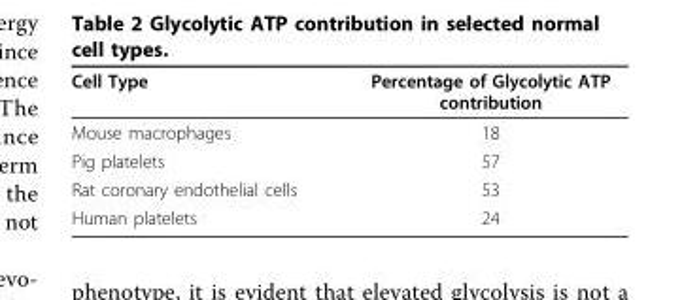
<table><thead><tr><td>Cell Type</td><td>Percentage of Glycolytic ATP contribution</td></tr></thead><tbody><tr><td>Mouse macrophages</td><td>18</td></tr><tr><td>Pig platelets</td><td>57</td></tr><tr><td>Rat coronary endothelial cells</td><td>53</td></tr><tr><td>Human platelets</td><td>24</td></tr></tbody></table>